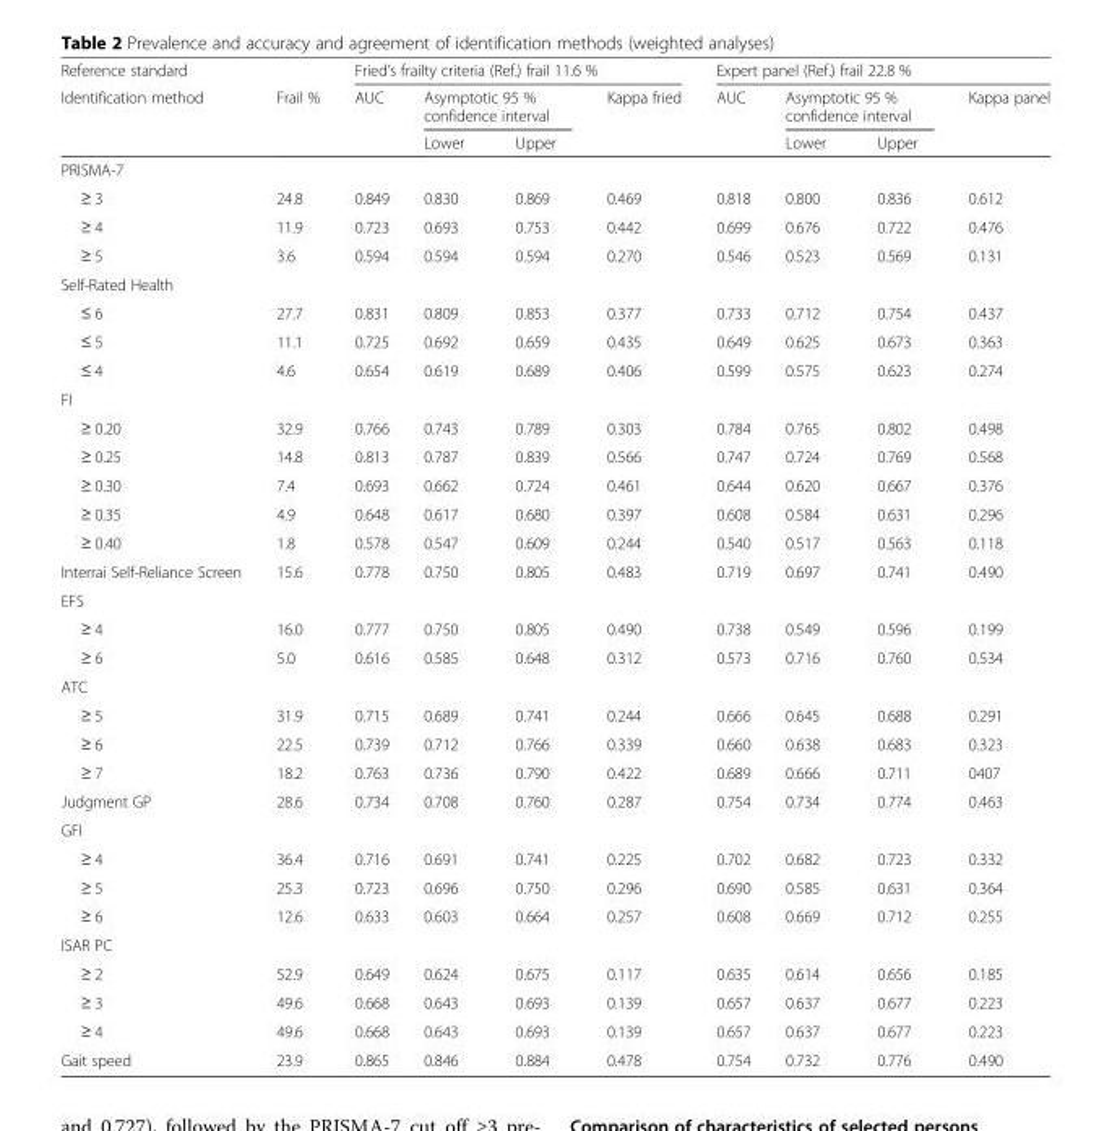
<table><thead><tr><td rowspan="3">Reference standard Identification method</td><td rowspan="3">Frail %</td><td colspan="4">Fried’s frailty criteria (Ref.) frail 11.6 %</td><td colspan="4">Expert panel (Ref.) frail 22.8 %</td></tr><tr><td rowspan="2">AUC</td><td colspan="2">Asymptotic 95 % confidence interval</td><td rowspan="2">Kappa fried</td><td rowspan="2">AUC</td><td colspan="2">Asymptotic 95 % confidence interval</td><td rowspan="2">Kappa panel</td></tr><tr><td>Lower</td><td>Upper</td><td>Lower</td><td>Upper</td></tr></thead><tbody><tr><td colspan="10">PRISMA-7</td></tr><tr><td>≥ 3</td><td>24.8</td><td>0.849</td><td>0.830</td><td>0.869</td><td>0.469</td><td>0.818</td><td>0.800</td><td>0.836</td><td>0.612</td></tr><tr><td>≥ 4</td><td>11.9</td><td>0.723</td><td>0.693</td><td>0.753</td><td>0.442</td><td>0.699</td><td>0.676</td><td>0.722</td><td>0.476</td></tr><tr><td>≥ 5</td><td>3.6</td><td>0.594</td><td>0.594</td><td>0.594</td><td>0.270</td><td>0.546</td><td>0.523</td><td>0.569</td><td>0.131</td></tr><tr><td colspan="10">Self-Rated Health</td></tr><tr><td>≤ 6</td><td>27.7</td><td>0.831</td><td>0.809</td><td>0.853</td><td>0.377</td><td>0.733</td><td>0.712</td><td>0.754</td><td>0.437</td></tr><tr><td>≤ 5</td><td>11.1</td><td>0.725</td><td>0.692</td><td>0.659</td><td>0.435</td><td>0.649</td><td>0.625</td><td>0.673</td><td>0.363</td></tr><tr><td>≤ 4</td><td>4.6</td><td>0.654</td><td>0.619</td><td>0.689</td><td>0.406</td><td>0.599</td><td>0.575</td><td>0.623</td><td>0.274</td></tr><tr><td colspan="10">FI</td></tr><tr><td>≥ 0.20</td><td>32.9</td><td>0.766</td><td>0.743</td><td>0.789</td><td>0.303</td><td>0.784</td><td>0.765</td><td>0.802</td><td>0.498</td></tr><tr><td>≥ 0.25</td><td>14.8</td><td>0.813</td><td>0.787</td><td>0.839</td><td>0.566</td><td>0.747</td><td>0.724</td><td>0.769</td><td>0.568</td></tr><tr><td>≥ 0.30</td><td>7.4</td><td>0.693</td><td>0.662</td><td>0.724</td><td>0.461</td><td>0.644</td><td>0.620</td><td>0.667</td><td>0.376</td></tr><tr><td>≥ 0.35</td><td>4.9</td><td>0.648</td><td>0.617</td><td>0.680</td><td>0.397</td><td>0.608</td><td>0.584</td><td>0.631</td><td>0.296</td></tr><tr><td>≥ 0.40</td><td>1.8</td><td>0.578</td><td>0.547</td><td>0.609</td><td>0.244</td><td>0.540</td><td>0.517</td><td>0.563</td><td>0.118</td></tr><tr><td>Interrai Self-Reliance Screen</td><td>15.6</td><td>0.778</td><td>0.750</td><td>0.805</td><td>0.483</td><td>0.719</td><td>0.697</td><td>0.741</td><td>0.490</td></tr><tr><td colspan="10">EFS</td></tr><tr><td>≥ 4</td><td>16.0</td><td>0.777</td><td>0.750</td><td>0.805</td><td>0.490</td><td>0.738</td><td>0.549</td><td>0.596</td><td>0.199</td></tr><tr><td>≥ 6</td><td>5.0</td><td>0.616</td><td>0.585</td><td>0.648</td><td>0.312</td><td>0.573</td><td>0.716</td><td>0.760</td><td>0.534</td></tr><tr><td colspan="10">ATC</td></tr><tr><td>≥ 5</td><td>31.9</td><td>0.715</td><td>0.689</td><td>0.741</td><td>0.244</td><td>0.666</td><td>0.645</td><td>0.688</td><td>0.291</td></tr><tr><td>≥ 6</td><td>22.5</td><td>0.739</td><td>0.712</td><td>0.766</td><td>0.339</td><td>0.660</td><td>0.638</td><td>0.683</td><td>0.323</td></tr><tr><td>≥ 7</td><td>18.2</td><td>0.763</td><td>0.736</td><td>0.790</td><td>0.422</td><td>0.689</td><td>0.666</td><td>0.711</td><td>0407</td></tr><tr><td>Judgment GP</td><td>28.6</td><td>0.734</td><td>0.708</td><td>0.760</td><td>0.287</td><td>0.754</td><td>0.734</td><td>0.774</td><td>0.463</td></tr><tr><td colspan="10">GFI</td></tr><tr><td>≥ 4</td><td>36.4</td><td>0.716</td><td>0.691</td><td>0.741</td><td>0.225</td><td>0.702</td><td>0.682</td><td>0.723</td><td>0.332</td></tr><tr><td>≥ 5</td><td>25.3</td><td>0.723</td><td>0.696</td><td>0.750</td><td>0.296</td><td>0.690</td><td>0.585</td><td>0.631</td><td>0.364</td></tr><tr><td>≥ 6</td><td>12.6</td><td>0.633</td><td>0.603</td><td>0.664</td><td>0.257</td><td>0.608</td><td>0.669</td><td>0.712</td><td>0.255</td></tr><tr><td colspan="10">ISAR PC</td></tr><tr><td>≥ 2</td><td>52.9</td><td>0.649</td><td>0.624</td><td>0.675</td><td>0.117</td><td>0.635</td><td>0.614</td><td>0.656</td><td>0.185</td></tr><tr><td>≥ 3</td><td>49.6</td><td>0.668</td><td>0.643</td><td>0.693</td><td>0.139</td><td>0.657</td><td>0.637</td><td>0.677</td><td>0.223</td></tr><tr><td>≥ 4</td><td>49.6</td><td>0.668</td><td>0.643</td><td>0.693</td><td>0.139</td><td>0.657</td><td>0.637</td><td>0.677</td><td>0.223</td></tr><tr><td>Gait speed</td><td>23.9</td><td>0.865</td><td>0.846</td><td>0.884</td><td>0.478</td><td>0.754</td><td>0.732</td><td>0.776</td><td>0.490</td></tr></tbody></table>